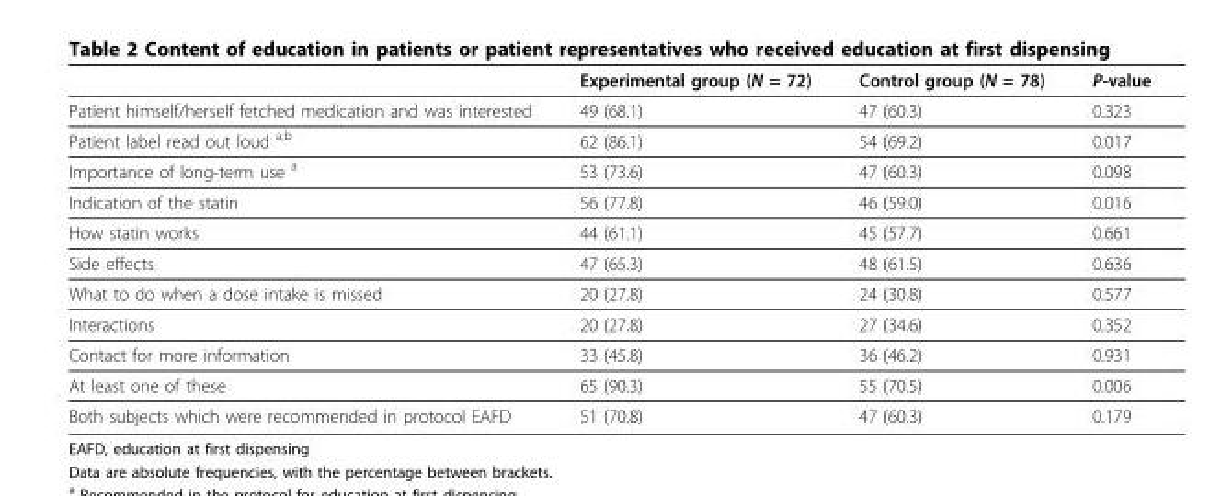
<table><thead><tr><td></td><td>Experimental group (N = 72)</td><td>Control group (N = 78)</td><td>P-value</td></tr></thead><tbody><tr><td>Patient himself/herself fetched medication and was interested</td><td>49 (68.1)</td><td>47 (60.3)</td><td>0.323</td></tr><tr><td>Patient label read out loud <sup>a;b</sup></td><td>62 (86.1)</td><td>54 (69.2)</td><td>0.017</td></tr><tr><td>Importance of long-term use <sup>a</sup></td><td>53 (73.6)</td><td>47 (60.3)</td><td>0.098</td></tr><tr><td>Indication of the statin</td><td>56 (77.8)</td><td>46 (59.0)</td><td>0.016</td></tr><tr><td>How statin works</td><td>44 (61.1)</td><td>45 (57.7)</td><td>0.661</td></tr><tr><td>Side effects</td><td>47 (65.3)</td><td>48 (61.5)</td><td>0.636</td></tr><tr><td>What to do when a dose intake is missed</td><td>20 (27.8)</td><td>24 (30.8)</td><td>0.577</td></tr><tr><td>Interactions</td><td>20 (27.8)</td><td>27 (34.6)</td><td>0.352</td></tr><tr><td>Contact for more information</td><td>33 (45.8)</td><td>36 (46.2)</td><td>0.931</td></tr><tr><td>At least one of these</td><td>65 (90.3)</td><td>55 (70.5)</td><td>0.006</td></tr><tr><td>Both subjects which were recommended in protocol EAFD</td><td>51 (70.8)</td><td>47 (60.3)</td><td>0.179</td></tr></tbody></table>